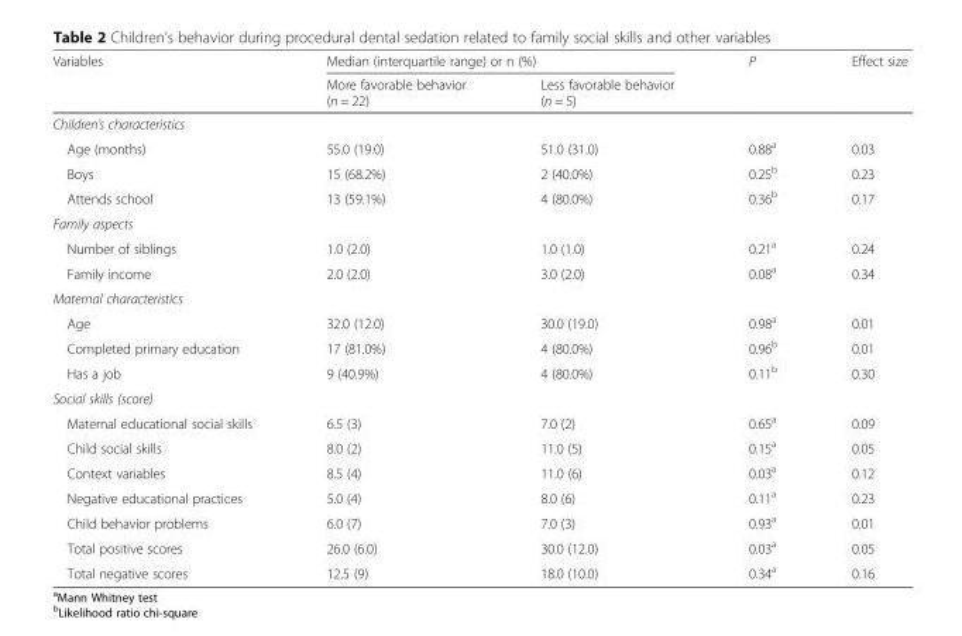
<table><thead><tr><td rowspan="2">Variables</td><td colspan="2">Median (interquartile range) or n (%)</td><td rowspan="2">P</td><td rowspan="2">Effect size</td></tr><tr><td>More favorable behavior (n = 22)</td><td>Less favorable behavior (n = 5)</td></tr></thead><tbody><tr><td colspan="5">Children’s characteristics</td></tr><tr><td>Age (months)</td><td>55.0 (19.0)</td><td>51.0 (31.0)</td><td>0.88<sup>a</sup></td><td>0.03</td></tr><tr><td>Boys</td><td>15 (68.2%)</td><td>2 (40.0%)</td><td>0.25<sup>b</sup></td><td>0.23</td></tr><tr><td>Attends school</td><td>13 (59.1%)</td><td>4 (80.0%)</td><td>0.36<sup>b</sup></td><td>0.17</td></tr><tr><td colspan="5">Family aspects</td></tr><tr><td>Number of siblings</td><td>1.0 (2.0)</td><td>1.0 (1.0)</td><td>0.21<sup>a</sup></td><td>0.24</td></tr><tr><td>Family income</td><td>2.0 (2.0)</td><td>3.0 (2.0)</td><td>0.08<sup>a</sup></td><td>0.34</td></tr><tr><td colspan="5">Maternal characteristics</td></tr><tr><td>Age</td><td>32.0 (12.0)</td><td>30.0 (19.0)</td><td>0.98<sup>a</sup></td><td>0.01</td></tr><tr><td>Completed primary education</td><td>17 (81.0%)</td><td>4 (80.0%)</td><td>0.96<sup>b</sup></td><td>0.01</td></tr><tr><td>Has a job</td><td>9 (40.9%)</td><td>4 (80.0%)</td><td>0.11<sup>b</sup></td><td>0.30</td></tr><tr><td colspan="5">Social skills (score)</td></tr><tr><td>Maternal educational social skills</td><td>6.5 (3)</td><td>7.0 (2)</td><td>0.65<sup>a</sup></td><td>0.09</td></tr><tr><td>Child social skills</td><td>8.0 (2)</td><td>11.0 (5)</td><td>0.15<sup>a</sup></td><td>0.05</td></tr><tr><td>Context variables</td><td>8.5 (4)</td><td>11.0 (6)</td><td>0.03<sup>a</sup></td><td>0.12</td></tr><tr><td>Negative educational practices</td><td>5.0 (4)</td><td>8.0 (6)</td><td>0.11<sup>a</sup></td><td>0.23</td></tr><tr><td>Child behavior problems</td><td>6.0 (7)</td><td>7.0 (3)</td><td>0.93<sup>a</sup></td><td>0.01</td></tr><tr><td>Total positive scores</td><td>26.0 (6.0)</td><td>30.0 (12.0)</td><td>0.03<sup>a</sup></td><td>0.05</td></tr><tr><td>Total negative scores</td><td>12.5 (9)</td><td>18.0 (10.0)</td><td>0.34<sup>a</sup></td><td>0.16</td></tr></tbody></table>